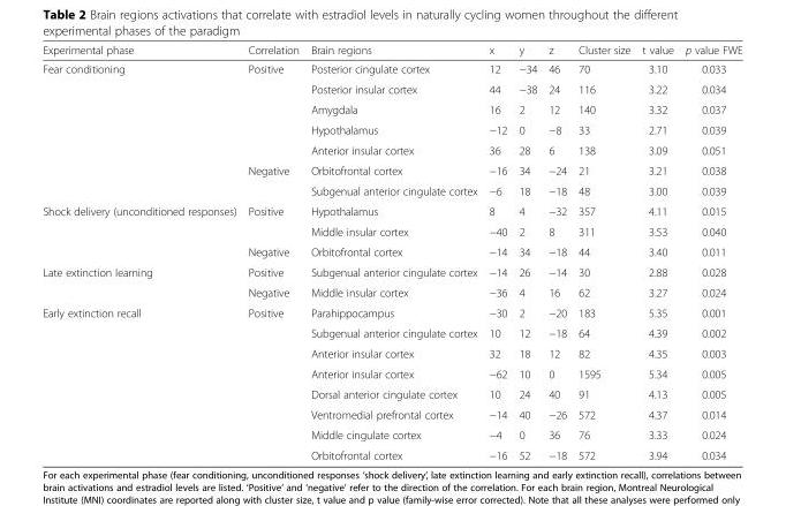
<table><thead><tr><td>Experimental phase</td><td>Correlation</td><td>Brain regions</td><td>x</td><td>y</td><td>z</td><td>Cluster size</td><td>t value</td><td>p value FWE</td></tr></thead><tbody><tr><td rowspan="7">Fear conditioning</td><td rowspan="5">Positive</td><td>Posterior cingulate cortex</td><td>12</td><td>−34</td><td>46</td><td>70</td><td>3.10</td><td>0.033</td></tr><tr><td>Posterior insular cortex</td><td>44</td><td>−38</td><td>24</td><td>116</td><td>3.22</td><td>0.034</td></tr><tr><td>Amygdala</td><td>16</td><td>2</td><td>12</td><td>140</td><td>3.32</td><td>0.037</td></tr><tr><td>Hypothalamus</td><td>−12</td><td>0</td><td>−8</td><td>33</td><td>2.71</td><td>0.039</td></tr><tr><td>Anterior insular cortex</td><td>36</td><td>28</td><td>6</td><td>138</td><td>3.09</td><td>0.051</td></tr><tr><td rowspan="2">Negative</td><td>Orbitofrontal cortex</td><td>−16</td><td>34</td><td>−24</td><td>21</td><td>3.21</td><td>0.038</td></tr><tr><td>Subgenual anterior cingulate cortex</td><td>−6</td><td>18</td><td>−18</td><td>48</td><td>3.00</td><td>0.039</td></tr><tr><td rowspan="3">Shock delivery (unconditioned responses)</td><td rowspan="2">Positive</td><td>Hypothalamus</td><td>8</td><td>4</td><td>−32</td><td>357</td><td>4.11</td><td>0.015</td></tr><tr><td>Middle insular cortex</td><td>−40</td><td>2</td><td>8</td><td>311</td><td>3.53</td><td>0.040</td></tr><tr><td>Negative</td><td>Orbitofrontal cortex</td><td>−14</td><td>34</td><td>−18</td><td>44</td><td>3.40</td><td>0.011</td></tr><tr><td rowspan="2">Late extinction learning</td><td>Positive</td><td>Subgenual anterior cingulate cortex</td><td>−14</td><td>26</td><td>−14</td><td>30</td><td>2.88</td><td>0.028</td></tr><tr><td>Negative</td><td>Middle insular cortex</td><td>−36</td><td>4</td><td>16</td><td>62</td><td>3.27</td><td>0.024</td></tr><tr><td rowspan="8">Early extinction recall</td><td rowspan="8">Positive</td><td>Parahippocampus</td><td>−30</td><td>2</td><td>−20</td><td>183</td><td>5.35</td><td>0.001</td></tr><tr><td>Subgenual anterior cingulate cortex</td><td>10</td><td>12</td><td>−18</td><td>64</td><td>4.39</td><td>0.002</td></tr><tr><td>Anterior insular cortex</td><td>32</td><td>18</td><td>12</td><td>82</td><td>4.35</td><td>0.003</td></tr><tr><td>Anterior insular cortex</td><td>−62</td><td>10</td><td>0</td><td>1595</td><td>5.34</td><td>0.005</td></tr><tr><td>Dorsal anterior cingulate cortex</td><td>10</td><td>24</td><td>40</td><td>91</td><td>4.13</td><td>0.005</td></tr><tr><td>Ventromedial prefrontal cortex</td><td>−14</td><td>40</td><td>−26</td><td>572</td><td>4.37</td><td>0.014</td></tr><tr><td>Middle cingulate cortex</td><td>−4</td><td>0</td><td>36</td><td>76</td><td>3.33</td><td>0.024</td></tr><tr><td>Orbitofrontal cortex</td><td>−16</td><td>52</td><td>−18</td><td>572</td><td>3.94</td><td>0.034</td></tr></tbody></table>